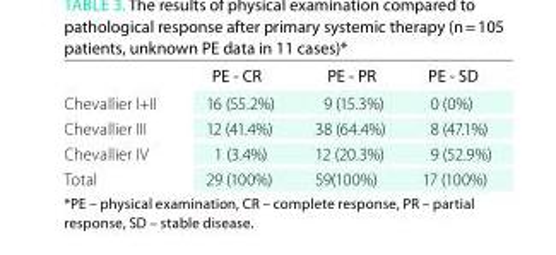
<table><thead><tr><td></td><td>Pe - CR</td><td>Pe - PR</td><td>Pe - SD</td></tr></thead><tbody><tr><td>Chevallier I+II</td><td>16 (55.2%)</td><td>9 (15.3%)</td><td>0 (0%)</td></tr><tr><td>Chevallier III</td><td>12 (41.4%)</td><td>38 (64.4%)</td><td>8 (47.1%)</td></tr><tr><td>Chevallier IV</td><td>1 (3.4%)</td><td>12 (20.3%)</td><td>9 (52.9%)</td></tr><tr><td>Total</td><td>29 (100%)</td><td>59(100%)</td><td>17 (100%)</td></tr></tbody></table>